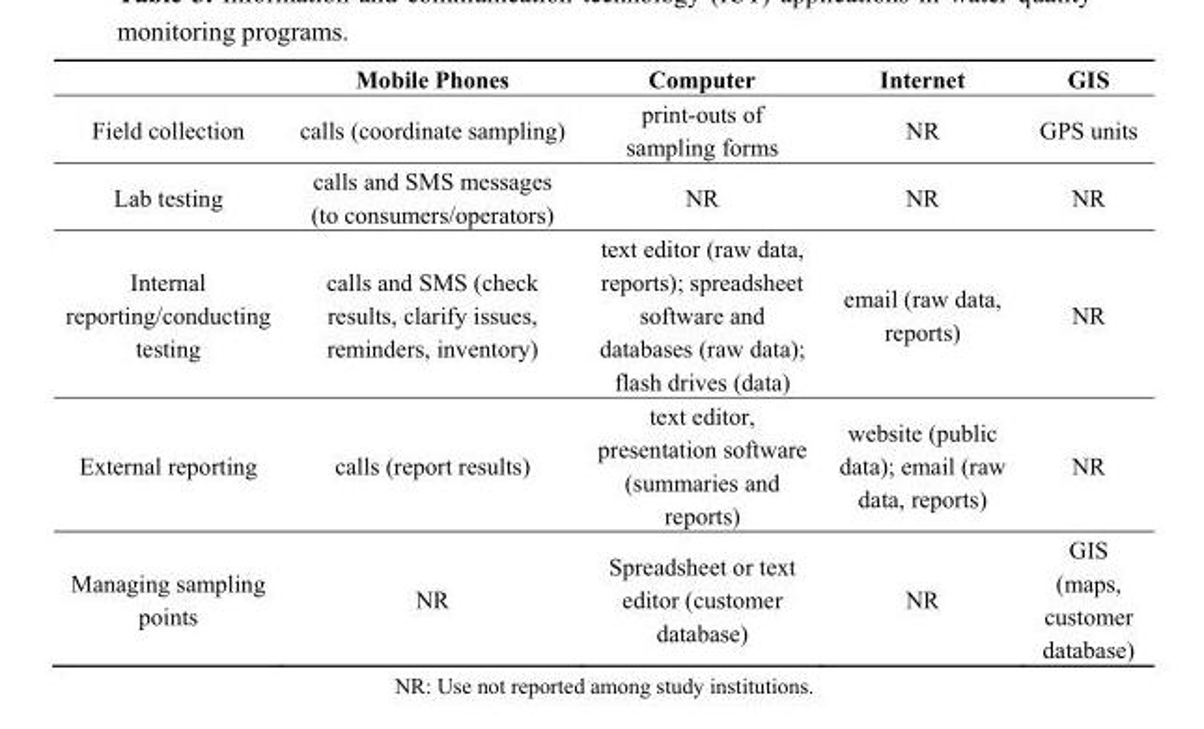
<table><thead><tr><td></td><td>Mobile Phones</td><td>Computer</td><td>Internet</td><td>GIS</td></tr></thead><tbody><tr><td>Field collection</td><td>calls (coordinate sampling)</td><td>print-outs of sampling forms</td><td>NR</td><td>GPS units</td></tr><tr><td>Lab testing</td><td>calls and SMS messages (to consumers/operators)</td><td>NR</td><td>NR</td><td>NR</td></tr><tr><td>Internal reporting/conducting testing</td><td>calls and SMS (check results, clarify issues, reminders, inventory)</td><td>text editor (raw data, reports); spreadsheet software and databases (raw data); flash drives (data)</td><td>email (raw data, reports)</td><td>NR</td></tr><tr><td>External reporting</td><td>calls (report results)</td><td>text editor, presentation software (summaries and reports)</td><td>website (public data); email (raw data, reports)</td><td>NR</td></tr><tr><td>Managing sampling points</td><td>NR</td><td>Spreadsheet or text editor (customer database)</td><td>NR</td><td>GIS (maps, customer database)</td></tr></tbody></table>